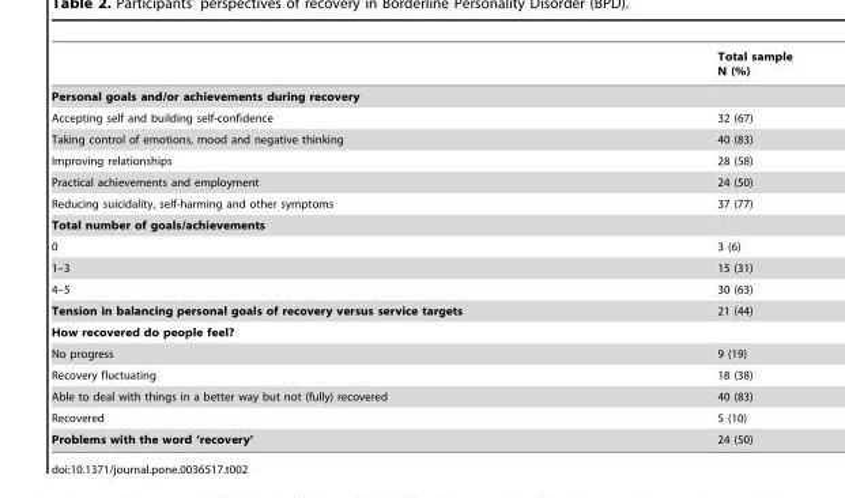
<table><thead><tr><td></td><td>Total sample N (%)</td></tr></thead><tbody><tr><td colspan="2">Personal goals and/or achievements during recovery</td></tr><tr><td>Accepting self and building self-confidence</td><td>32 (67)</td></tr><tr><td>Taking control of emotions, mood and negative thinking</td><td>40 (83)</td></tr><tr><td>Improving relationships</td><td>28 (58)</td></tr><tr><td>Practical achievements and employment</td><td>24 (50)</td></tr><tr><td>Reducing suicidality, self-harming and other symptoms</td><td>37 (77)</td></tr><tr><td colspan="2">Total number of goals/achievements</td></tr><tr><td>0</td><td>3 (6)</td></tr><tr><td>1–3</td><td>15 (31)</td></tr><tr><td>4–5</td><td>30 (63)</td></tr><tr><td>Tension in balancing personal goals of recovery versus service targets</td><td>21 (44)</td></tr><tr><td colspan="2">How recovered do people feel?</td></tr><tr><td>No progress</td><td>9 (19)</td></tr><tr><td>Recovery fluctuating</td><td>18 (38)</td></tr><tr><td>Able to deal with things in a better way but not (fully) recovered</td><td>40 (83)</td></tr><tr><td>Recovered</td><td>5 (10)</td></tr><tr><td>Problems with the word ‘recovery’</td><td>24 (50)</td></tr></tbody></table>